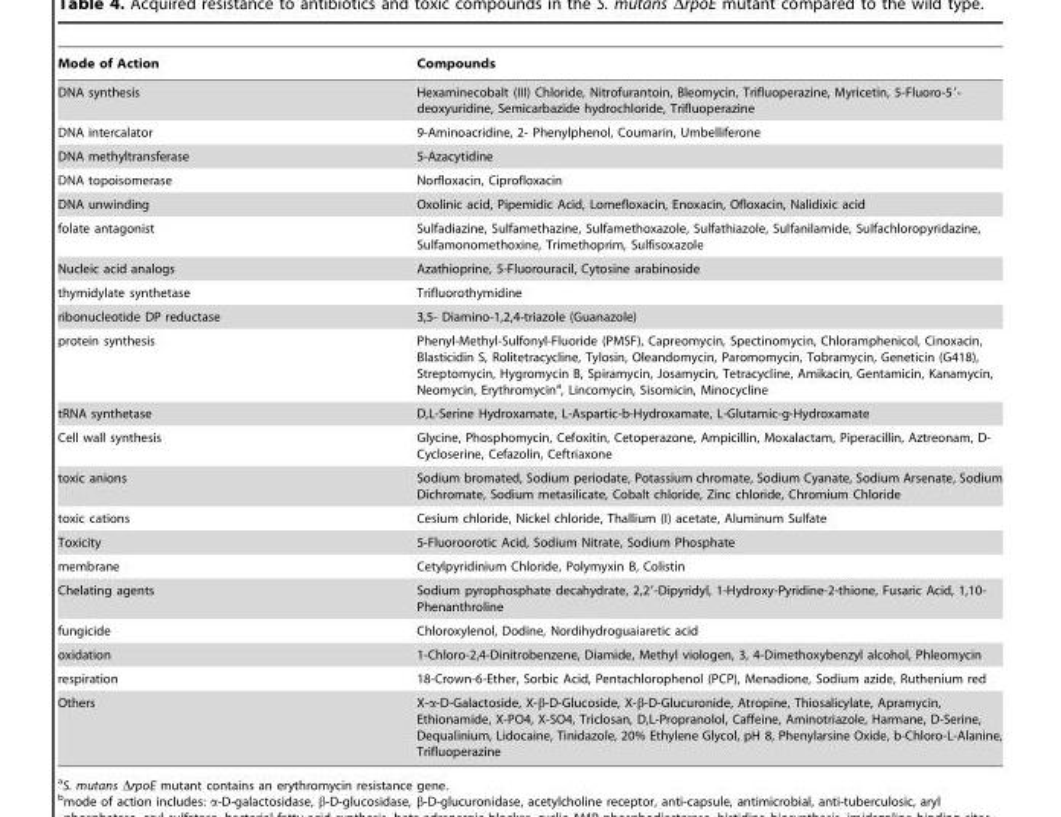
<table><thead><tr><td>Mode of Action</td><td>Compounds</td></tr></thead><tbody><tr><td>DNA synthesis</td><td>Hexaminecobalt (III) Chloride, Nitrofurantoin, Bleomycin, Trifluoperazine, Myricetin, 5-Fluoro-5′- deoxyuridine, Semicarbazide hydrochloride, Trifluoperazine</td></tr><tr><td>DNA intercalator</td><td>9-Aminoacridine, 2- Phenylphenol, Coumarin, Umbelliferone</td></tr><tr><td>DNA methyltransferase</td><td>5-Azacytidine</td></tr><tr><td>DNA topoisomerase</td><td>Norfloxacin, Ciprofloxacin</td></tr><tr><td>DNA unwinding</td><td>Oxolinic acid, Pipemidic Acid, Lomefloxacin, Enoxacin, Ofloxacin, Nalidixic acid</td></tr><tr><td>folate antagonist</td><td>Sulfadiazine, Sulfamethazine, Sulfamethoxazole, Sulfathiazole, Sulfanilamide, Sulfachloropyridazine, Sulfamonomethoxine, Trimethoprim, Sulfisoxazole</td></tr><tr><td>Nucleic acid analogs</td><td>Azathioprine, 5-Fluorouracil, Cytosine arabinoside</td></tr><tr><td>thymidylate synthetase</td><td>Trifluorothymidine</td></tr><tr><td>ribonucleotide DP reductase</td><td>3,5- Diamino-1,2,4-triazole (Guanazole)</td></tr><tr><td>protein synthesis</td><td>Phenyl-Methyl-Sulfonyl-Fluoride (PMSF), Capreomycin, Spectinomycin, Chloramphenicol, Cinoxacin, Blasticidin S, Rolitetracycline, Tylosin, Oleandomycin, Paromomycin, Tobramycin, Geneticin (G418), Streptomycin, Hygromycin B, Spiramycin, Josamycin, Tetracycline, Amikacin, Gentamicin, Kanamycin, Neomycin, Erythromycin<sup>a</sup>, Lincomycin, Sisomicin, Minocycline</td></tr><tr><td>tRNA synthetase</td><td>D,L-Serine Hydroxamate, L-Aspartic-b-Hydroxamate, L-Glutamic-g-Hydroxamate</td></tr><tr><td>Cell wall synthesis</td><td>Glycine, Phosphomycin, Cefoxitin, Cetoperazone, Ampicillin, Moxalactam, Piperacillin, Aztreonam, D- Cycloserine, Cefazolin, Ceftriaxone</td></tr><tr><td>toxic anions</td><td>Sodium bromated, Sodium periodate, Potassium chromate, Sodium Cyanate, Sodium Arsenate, Sodium Dichromate, Sodium metasilicate, Cobalt chloride, Zinc chloride, Chromium Chloride</td></tr><tr><td>toxic cations</td><td>Cesium chloride, Nickel chloride, Thallium (I) acetate, Aluminum Sulfate</td></tr><tr><td>Toxicity</td><td>5-Fluoroorotic Acid, Sodium Nitrate, Sodium Phosphate</td></tr><tr><td>membrane</td><td>Cetylpyridinium Chloride, Polymyxin B, Colistin</td></tr><tr><td>Chelating agents</td><td>Sodium pyrophosphate decahydrate, 2,2′-Dipyridyl, 1-Hydroxy-Pyridine-2-thione, Fusaric Acid, 1,10- Phenanthroline</td></tr><tr><td>fungicide</td><td>Chloroxylenol, Dodine, Nordihydroguaiaretic acid</td></tr><tr><td>oxidation</td><td>1-Chloro-2,4-Dinitrobenzene, Diamide, Methyl viologen, 3, 4-Dimethoxybenzyl alcohol, Phleomycin</td></tr><tr><td>respiration</td><td>18-Crown-6-Ether, Sorbic Acid, Pentachlorophenol (PCP), Menadione, Sodium azide, Ruthenium red</td></tr><tr><td>Others</td><td>X-α-D-Galactoside, X-β-D-Glucoside, X-β-D-Glucuronide, Atropine, Thiosalicylate, Apramycin, Ethionamide, X-PO4, X-SO4, Triclosan, D,L-Propranolol, Caffeine, Aminotriazole, Harmane, D-Serine, Dequalinium, Lidocaine, Tinidazole, 20% Ethylene Glycol, pH 8, Phenylarsine Oxide, b-Chloro-L-Alanine, Trifluoperazine</td></tr></tbody></table>